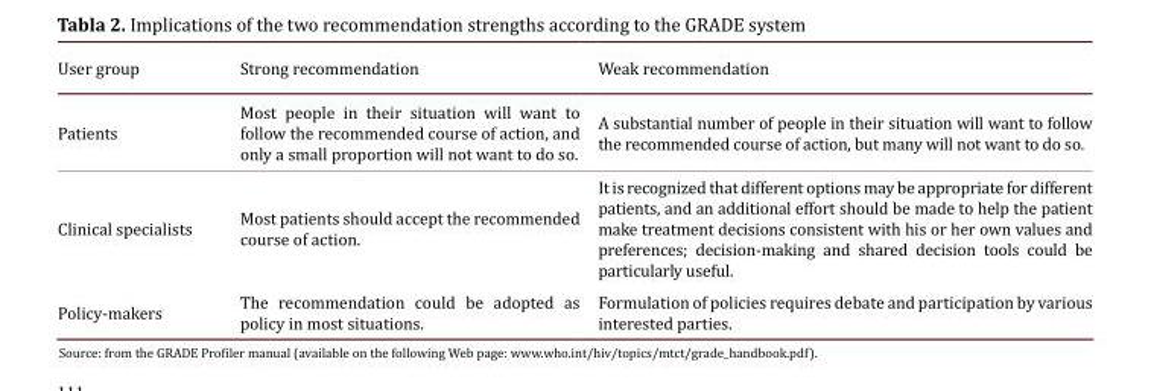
<table><thead><tr><td>User group</td><td>Strong recommendation</td><td>Weak recommendation</td></tr></thead><tbody><tr><td>Patients</td><td>Most people in their situation will want to follow the recommended course of action, and only a small proportion will not want to do so.</td><td>A substantial number of people in their situation will want to follow the recommended course of action, but many will not want to do so.</td></tr><tr><td>Clinical specialists</td><td>Most patients should accept the recommended course of action.</td><td>It is recognized that different options may be appropriate for different patients, and an additional effort should be made to help the patient make treatment decisions consistent with his or her own values and preferences; decision-making and shared decision tools could be particularly useful.</td></tr><tr><td>Policy-makers</td><td>The recommendation could be adopted as policy in most situations.</td><td>Formulation of policies requires debate and participation by various interested parties.</td></tr></tbody></table>